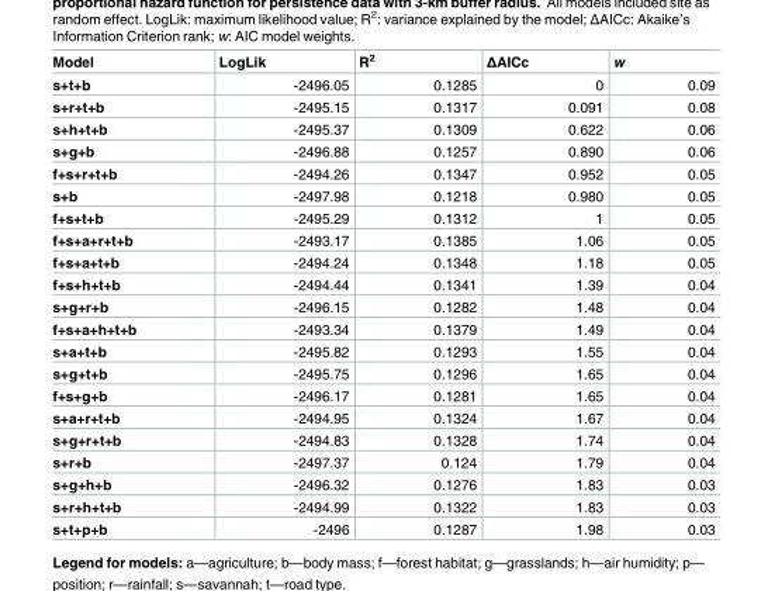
<table><thead><tr><td>Model</td><td>LogLik</td><td>R<sup>2</sup></td><td>ΔAICc</td><td>w</td></tr></thead><tbody><tr><td>s+t+b</td><td>-2496.05</td><td>0.1285</td><td>0</td><td>0.09</td></tr><tr><td>s+r+t+b</td><td>-2495.15</td><td>0.1317</td><td>0.091</td><td>0.08</td></tr><tr><td>s+h+t+b</td><td>-2495.37</td><td>0.1309</td><td>0.622</td><td>0.06</td></tr><tr><td>s+g+b</td><td>-2496.88</td><td>0.1257</td><td>0.890</td><td>0.06</td></tr><tr><td>f+s+r+t+b</td><td>-2494.26</td><td>0.1347</td><td>0.952</td><td>0.05</td></tr><tr><td>s+b</td><td>-2497.98</td><td>0.1218</td><td>0.980</td><td>0.05</td></tr><tr><td>f+s+t+b</td><td>-2495.29</td><td>0.1312</td><td>1</td><td>0.05</td></tr><tr><td>f+s+a+r+t+b</td><td>-2493.17</td><td>0.1385</td><td>1.06</td><td>0.05</td></tr><tr><td>f+s+a+t+b</td><td>-2494.24</td><td>0.1348</td><td>1.18</td><td>0.05</td></tr><tr><td>f+s+h+t+b</td><td>-2494.44</td><td>0.1341</td><td>1.39</td><td>0.04</td></tr><tr><td>s+g+r+b</td><td>-2496.15</td><td>0.1282</td><td>1.48</td><td>0.04</td></tr><tr><td>f+s+a+h+t+b</td><td>-2493.34</td><td>0.1379</td><td>1.49</td><td>0.04</td></tr><tr><td>s+a+t+b</td><td>-2495.82</td><td>0.1293</td><td>1.55</td><td>0.04</td></tr><tr><td>s+g+t+b</td><td>-2495.75</td><td>0.1296</td><td>1.65</td><td>0.04</td></tr><tr><td>f+s+g+b</td><td>-2496.17</td><td>0.1281</td><td>1.65</td><td>0.04</td></tr><tr><td>s+a+r+t+b</td><td>-2494.95</td><td>0.1324</td><td>1.67</td><td>0.04</td></tr><tr><td>s+g+r+t+b</td><td>-2494.83</td><td>0.1328</td><td>1.74</td><td>0.04</td></tr><tr><td>s+r+b</td><td>-2497.37</td><td>0.124</td><td>1.79</td><td>0.04</td></tr><tr><td>s+g+h+b</td><td>-2496.32</td><td>0.1276</td><td>1.83</td><td>0.03</td></tr><tr><td>s+r+h+t+b</td><td>-2494.99</td><td>0.1322</td><td>1.83</td><td>0.03</td></tr><tr><td>s+t+p+b</td><td>-2496</td><td>0.1287</td><td>1.98</td><td>0.03</td></tr></tbody></table>